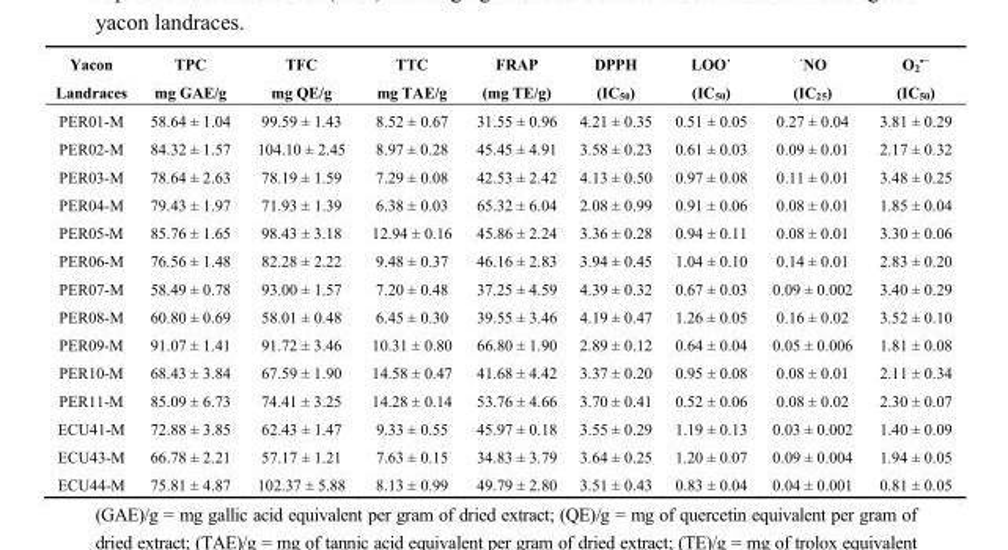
<table><thead><tr><td>Yacon Landraces</td><td>TPC mg GAE/g</td><td>TFC mg QE/g</td><td>TTC mg TAE/g</td><td>FRAP (mg TE/g)</td><td>DPPH (IC<sub>50</sub>)</td><td>LOO˙ (IC<sub>50</sub>)</td><td>˙NO (IC<sub>25</sub>)</td><td>O<sub>2</sub><sup>•−</sup> (IC<sub>50</sub>)</td></tr></thead><tbody><tr><td>PER01-M</td><td>58.64 ± 1.04</td><td>99.59 ± 1.43</td><td>8.52 ± 0.67</td><td>31.55 ± 0.96</td><td>4.21 ± 0.35</td><td>0.51 ± 0.05</td><td>0.27 ± 0.04</td><td>3.81 ± 0.29</td></tr><tr><td>PER02-M</td><td>84.32 ± 1.57</td><td>104.10 ± 2.45</td><td>8.97 ± 0.28</td><td>45.45 ± 4.91</td><td>3.58 ± 0.23</td><td>0.61 ± 0.03</td><td>0.09 ± 0.01</td><td>2.17 ± 0.32</td></tr><tr><td>PER03-M</td><td>78.64 ± 2.63</td><td>78.19 ± 1.59</td><td>7.29 ± 0.08</td><td>42.53 ± 2.42</td><td>4.13 ± 0.50</td><td>0.97 ± 0.08</td><td>0.11 ± 0.01</td><td>3.48 ± 0.25</td></tr><tr><td>PER04-M</td><td>79.43 ± 1.97</td><td>71.93 ± 1.39</td><td>6.38 ± 0.03</td><td>65.32 ± 6.04</td><td>2.08 ± 0.99</td><td>0.91 ± 0.06</td><td>0.08 ± 0.01</td><td>1.85 ± 0.04</td></tr><tr><td>PER05-M</td><td>85.76 ± 1.65</td><td>98.43 ± 3.18</td><td>12.94 ± 0.16</td><td>45.86 ± 2.24</td><td>3.36 ± 0.28</td><td>0.94 ± 0.11</td><td>0.08 ± 0.01</td><td>3.30 ± 0.06</td></tr><tr><td>PER06-M</td><td>76.56 ± 1.48</td><td>82.28 ± 2.22</td><td>9.48 ± 0.37</td><td>46.16 ± 2.83</td><td>3.94 ± 0.45</td><td>1.04 ± 0.10</td><td>0.14 ± 0.01</td><td>2.83 ± 0.20</td></tr><tr><td>PER07-M</td><td>58.49 ± 0.78</td><td>93.00 ± 1.57</td><td>7.20 ± 0.48</td><td>37.25 ± 4.59</td><td>4.39 ± 0.32</td><td>0.67 ± 0.03</td><td>0.09 ± 0.002</td><td>3.40 ± 0.29</td></tr><tr><td>PER08-M</td><td>60.80 ± 0.69</td><td>58.01 ± 0.48</td><td>6.45 ± 0.30</td><td>39.55 ± 3.46</td><td>4.19 ± 0.47</td><td>1.26 ± 0.05</td><td>0.16 ± 0.02</td><td>3.52 ± 0.10</td></tr><tr><td>PER09-M</td><td>91.07 ± 1.41</td><td>91.72 ± 3.46</td><td>10.31 ± 0.80</td><td>66.80 ± 1.90</td><td>2.89 ± 0.12</td><td>0.64 ± 0.04</td><td>0.05 ± 0.006</td><td>1.81 ± 0.08</td></tr><tr><td>PER10-M</td><td>68.43 ± 3.84</td><td>67.59 ± 1.90</td><td>14.58 ± 0.47</td><td>41.68 ± 4.42</td><td>3.37 ± 0.20</td><td>0.95 ± 0.08</td><td>0.08 ± 0.01</td><td>2.11 ± 0.34</td></tr><tr><td>PER11-M</td><td>85.09 ± 6.73</td><td>74.41 ± 3.25</td><td>14.28 ± 0.14</td><td>53.76 ± 4.66</td><td>3.70 ± 0.41</td><td>0.52 ± 0.06</td><td>0.08 ± 0.02</td><td>2.30 ± 0.07</td></tr><tr><td>ECU41-M</td><td>72.88 ± 3.85</td><td>62.43 ± 1.47</td><td>9.33 ± 0.55</td><td>45.97 ± 0.18</td><td>3.55 ± 0.29</td><td>1.19 ± 0.13</td><td>0.03 ± 0.002</td><td>1.40 ± 0.09</td></tr><tr><td>ECU43-M</td><td>66.78 ± 2.21</td><td>57.17 ± 1.21</td><td>7.63 ± 0.15</td><td>34.83 ± 3.79</td><td>3.64 ± 0.25</td><td>1.20 ± 0.07</td><td>0.09 ± 0.004</td><td>1.94 ± 0.05</td></tr><tr><td>ECU44-M</td><td>75.81 ± 4.87</td><td>102.37 ± 5.88</td><td>8.13 ± 0.99</td><td>49.79 ± 2.80</td><td>3.51 ± 0.43</td><td>0.83 ± 0.04</td><td>0.04 ± 0.001</td><td>0.81 ± 0.05</td></tr></tbody></table>